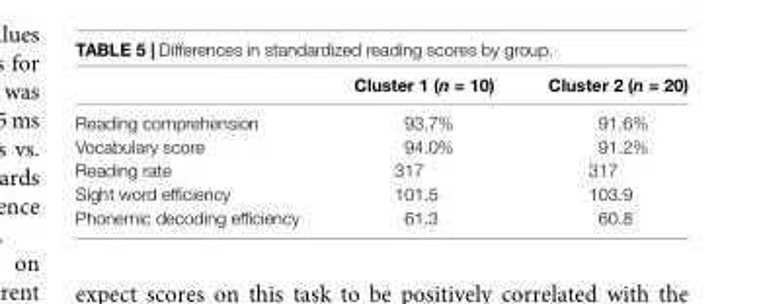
<table><thead><tr><td></td><td>Cluster 1 (n = 10)</td><td>Cluster 2 (n = 20)</td></tr></thead><tbody><tr><td>Reading comprehension</td><td>93.7%</td><td>91.6%</td></tr><tr><td>Vocabulary score</td><td>94.0%</td><td>91.2%</td></tr><tr><td>Reading rate</td><td>317</td><td>317</td></tr><tr><td>Sight word efficiency</td><td>101.5</td><td>103.9</td></tr><tr><td>Phonemic decoding efficiency</td><td>61.3</td><td>60.8</td></tr></tbody></table>